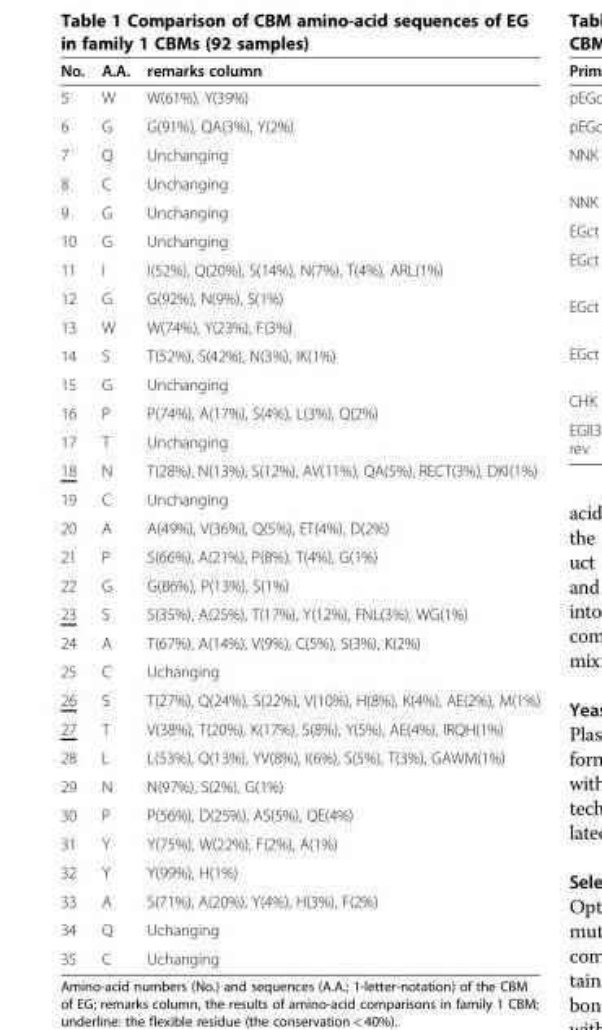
<table><thead><tr><td>No.</td><td>A.A.</td><td>remarks column</td></tr></thead><tbody><tr><td>5</td><td>W</td><td>W(61%), Y(39%)</td></tr><tr><td>6</td><td>G</td><td>G(91%), QA(3%), Y(2%)</td></tr><tr><td>7</td><td>Q</td><td>Unchanging</td></tr><tr><td>8</td><td>C</td><td>Unchanging</td></tr><tr><td>9</td><td>G</td><td>Unchanging</td></tr><tr><td>10</td><td>G</td><td>Unchanging</td></tr><tr><td>11</td><td>I</td><td>I(52%), Q(20%), S(14%), N(7%), T(4%), ARL(1%)</td></tr><tr><td>12</td><td>G</td><td>G(92%), N(9%), S(1%)</td></tr><tr><td>13</td><td>W</td><td>W(74%), Y(23%), F(3%)</td></tr><tr><td>14</td><td>S</td><td>T(52%), S(42%), N(3%), IK(1%)</td></tr><tr><td>15</td><td>G</td><td>Unchanging</td></tr><tr><td>16</td><td>P</td><td>P(74%), A(17%), S(4%), L(3%), Q(2%)</td></tr><tr><td>17</td><td>T</td><td>Unchanging</td></tr><tr><td>18</td><td>N</td><td>T(28%), N(13%), S(12%), AV(11%), QA(5%), RECT(3%), DKI(1%)</td></tr><tr><td>19</td><td>C</td><td>Unchanging</td></tr><tr><td>20</td><td>A</td><td>A(49%), V(36%), Q(5%), ET(4%), D(2%)</td></tr><tr><td>21</td><td>P</td><td>S(66%), A(21%), P(8%), T(4%), G(1%)</td></tr><tr><td>22</td><td>G</td><td>G(86%), P(13%), S(1%)</td></tr><tr><td>23</td><td>S</td><td>S(35%), A(25%), T(17%), Y(12%), FNL(3%), WG(1%)</td></tr><tr><td>24</td><td>A</td><td>T(67%), A(14%), V(9%), C(5%), S(3%), K(2%)</td></tr><tr><td>25</td><td>C</td><td>Uchanging</td></tr><tr><td>26</td><td>S</td><td>T(27%), Q(24%), S(22%), V(10%), H(8%), K(4%), AE(2%), M(1%)</td></tr><tr><td>27</td><td>T</td><td>V(38%), T(20%), K(17%), S(8%), Y(5%), AE(4%), IRQH(1%)</td></tr><tr><td>28</td><td>L</td><td>L(53%), Q(13%), YV(8%), I(6%), S(5%), T(3%), GAWM(1%)</td></tr><tr><td>29</td><td>N</td><td>N(97%), S(2%), G(1%)</td></tr><tr><td>30</td><td>P</td><td>P(56%), D(25%), AS(5%), QE(4%)</td></tr><tr><td>31</td><td>Y</td><td>Y(75%), W(22%), F(2%), A(1%)</td></tr><tr><td>32</td><td>Y</td><td>Y(99%), H(1%)</td></tr><tr><td>33</td><td>A</td><td>S(71%), A(20%), Y(4%), H(3%), F(2%)</td></tr><tr><td>34</td><td>Q</td><td>Uchanging</td></tr><tr><td>35</td><td>C</td><td>Uchanging</td></tr></tbody></table>